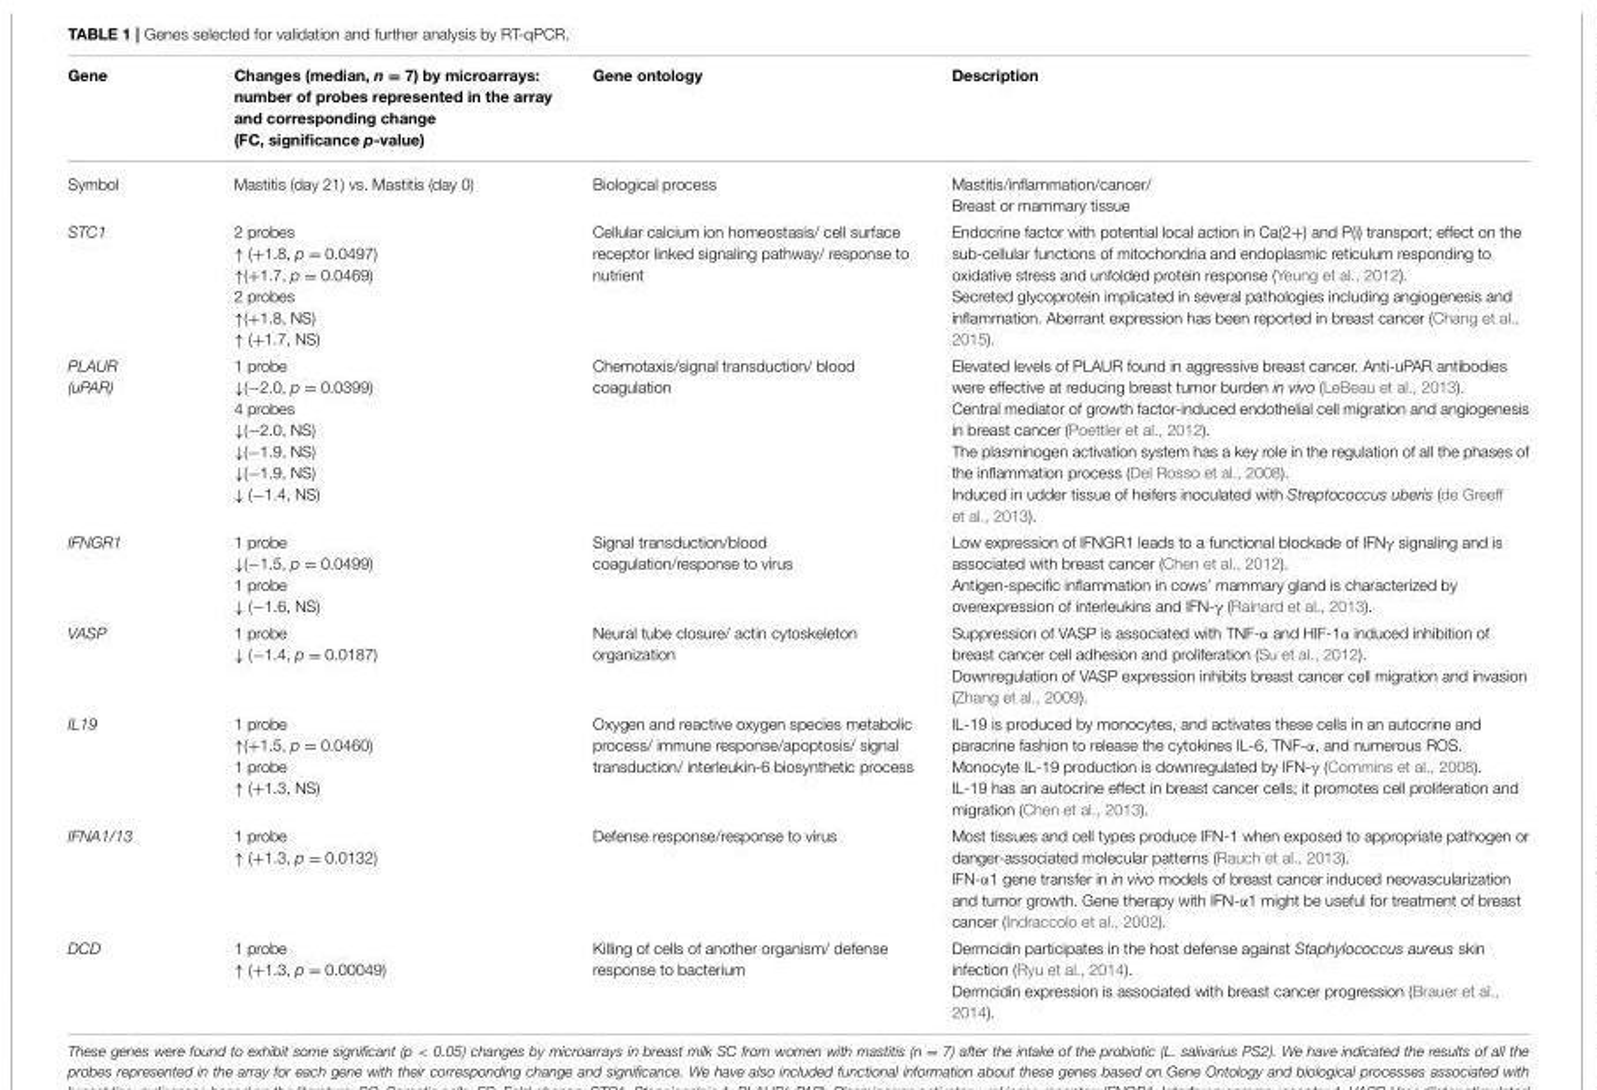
<table><thead><tr><td>Gene</td><td>Changes (median, n = 7) by microarrays: number of probes represented in the array and corresponding change (FC, significance p-value)</td><td>Gene ontology</td><td>Description</td></tr></thead><tbody><tr><td>Symbol</td><td>Mastitis (day 21) vs. Mastitis (day 0)</td><td>Biological process</td><td>Mastitis/inflammation/cancer/ Breast or mammary tissue</td></tr><tr><td>STC1</td><td>2 probes ↑ (+1.8, p = 0.0497) ↑(+1.7, p = 0.0469) 2 probes ↑(+1.8, NS) ↑ (+1.7, NS)</td><td>Cellular calcium ion homeostasis/ cell surface receptor linked signaling pathway/ response to nutrient</td><td>Endocrine factor with potential local action in Ca(2+) and P(i) transport; effect on the sub-cellular functions of mitochondria and endoplasmic reticulum responding to oxidative stress and unfolded protein response (Yeung et al., 2012). Secreted glycoprotein implicated in several pathologies including angiogenesis and inflammation. Aberrant expression has been reported in breast cancer (Chang et al., 2015).</td></tr><tr><td>PLAUR (uPAR)</td><td>1 probe ↓(−2.0, p = 0.0399) 4 probes ↓(−2.0, NS) ↓(−1.9, NS) ↓(−1.9, NS) ↓ (−1.4, NS)</td><td>Chemotaxis/signal transduction/ blood coagulation</td><td>Elevated levels of PLAUR found in aggressive breast cancer. Anti-uPAR antibodies were effective at reducing breast tumor burden in vivo (LeBeau et al., 2013). Central mediator of growth factor-induced endothelial cell migration and angiogenesis in breast cancer (Poettler et al., 2012). The plasminogen activation system has a key role in the regulation of all the phases of the inflammation process (Del Rosso et al., 2008). Induced in udder tissue of heifers inoculated with Streptococcus uberis (de Greeff et al., 2013).</td></tr><tr><td>IFNGR1</td><td>1 probe ↓(−1.5, p = 0.0499) 1 probe ↓ (−1.6, NS)</td><td>Signal transduction/blood coagulation/response to virus</td><td>Low expression of IFNGR1 leads to a functional blockade of IFNγ signaling and is associated with breast cancer (Chen et al., 2012). Antigen-specific inflammation in cows’ mammary gland is characterized by overexpression of interleukins and IFN-γ (Rainard et al., 2013).</td></tr><tr><td>VASP</td><td>1 probe ↓ (−1.4, p = 0.0187)</td><td>Neural tube closure/ actin cytoskeleton organization</td><td>Suppression of VASP is associated with TNF-α and HIF-1α induced inhibition of breast cancer cell adhesion and proliferation (Su et al., 2012). Downregulation of VASP expression inhibits breast cancer cell migration and invasion (Zhang et al., 2009).</td></tr><tr><td>IL19</td><td>1 probe ↑(+1.5, p = 0.0460) 1 probe ↑ (+1.3, NS)</td><td>Oxygen and reactive oxygen species metabolic process/ immune response/apoptosis/ signal transduction/ interleukin-6 biosynthetic process</td><td>IL-19 is produced by monocytes, and activates these cells in an autocrine and paracrine fashion to release the cytokines IL-6, TNF-α, and numerous ROS. Monocyte IL-19 production is downregulated by IFN-γ (Commins et al., 2008). IL-19 has an autocrine effect in breast cancer cells; it promotes cell proliferation and migration (Chen et al., 2013).</td></tr><tr><td>IFNA1/13</td><td>1 probe ↑ (+1.3, p = 0.0132)</td><td>Defense response/response to virus</td><td>Most tissues and cell types produce IFN-1 when exposed to appropriate pathogen or danger-associated molecular patterns (Rauch et al., 2013). IFN-α1 gene transfer in in vivo models of breast cancer induced neovascularization and tumor growth. Gene therapy with IFN-α1 might be useful for treatment of breast cancer (Indraccolo et al., 2002).</td></tr><tr><td>DCD</td><td>1 probe ↑ (+1.3, p = 0.00049)</td><td>Killing of cells of another organism/ defense response to bacterium</td><td>Dermcidin participates in the host defense against Staphylococcus aureus skin infection (Ryu et al., 2014). Dermcidin expression is associated with breast cancer progression (Brauer et al., 2014).</td></tr></tbody></table>